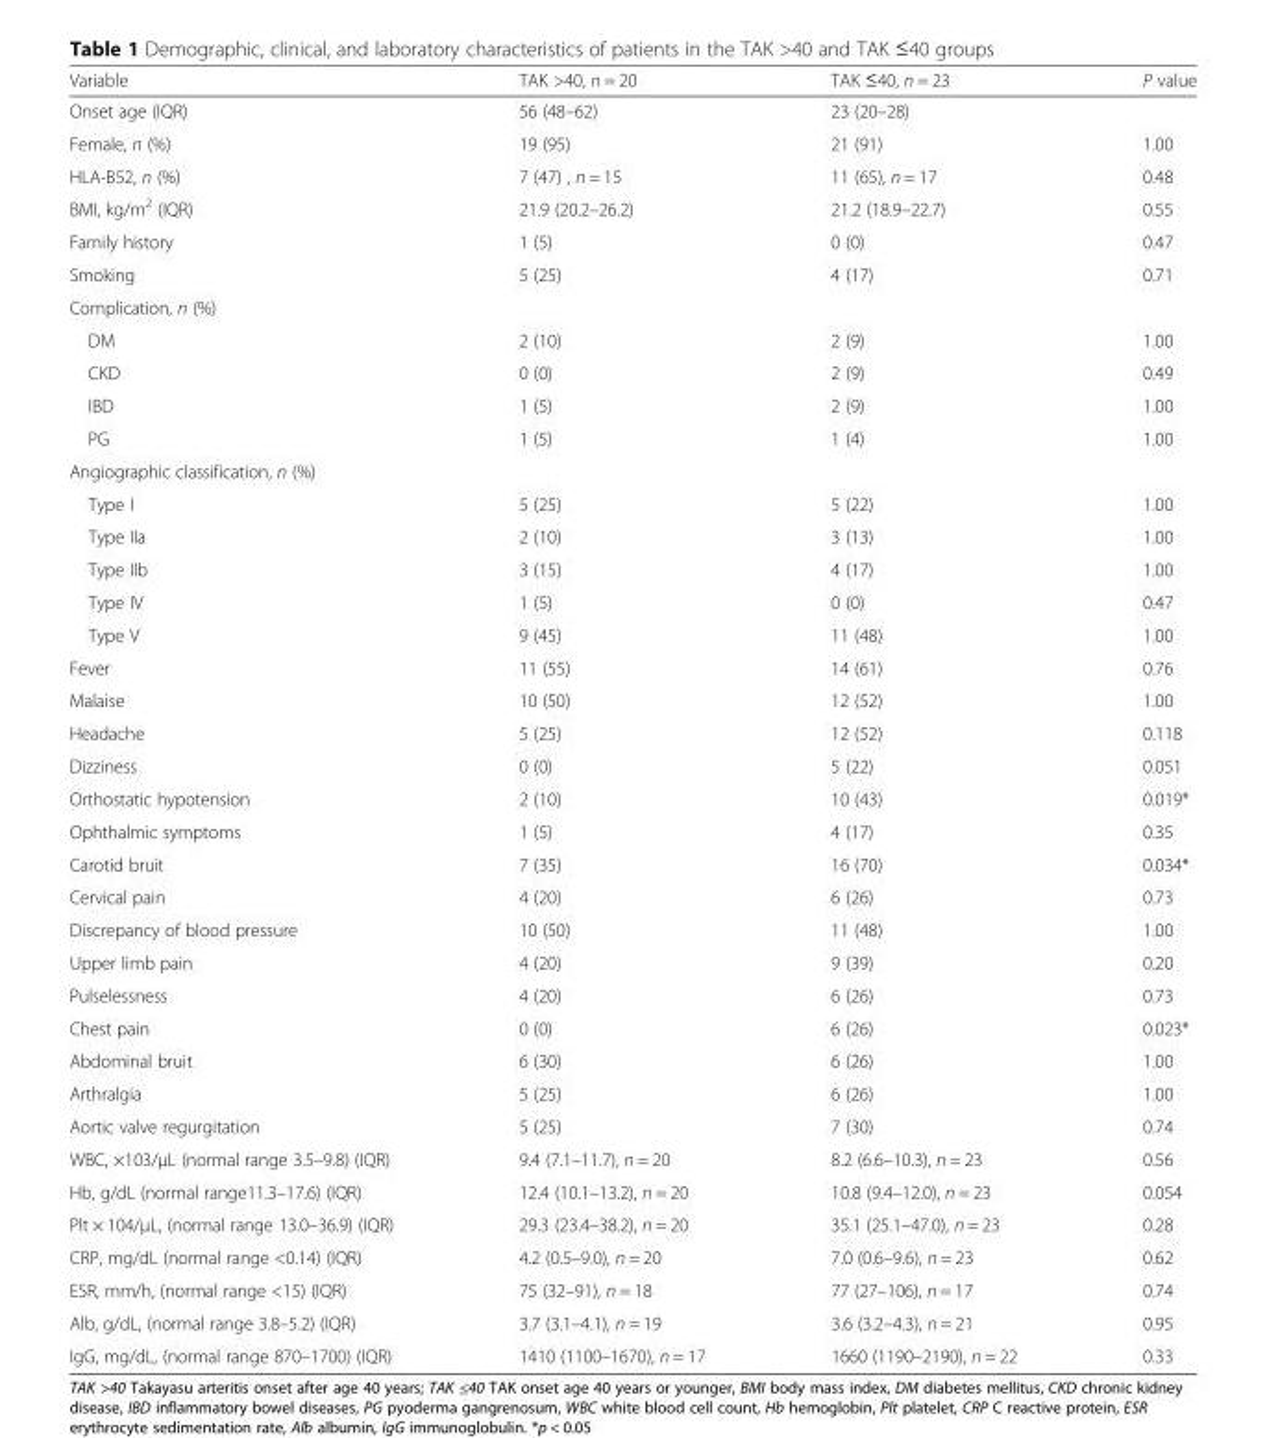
<table><thead><tr><td>Variable</td><td>TAK &gt;40, n = 20</td><td>TAK ≤40, n = 23</td><td>P value</td></tr></thead><tbody><tr><td>Onset age (IQR)</td><td>56 (48–62)</td><td>23 (20–28)</td><td></td></tr><tr><td>Female, n (%)</td><td>19 (95)</td><td>21 (91)</td><td>1.00</td></tr><tr><td>HLA-B52, n (%)</td><td>7 (47) , n = 15</td><td>11 (65), n = 17</td><td>0.48</td></tr><tr><td>BMI, kg/m<sup>2</sup> (IQR)</td><td>21.9 (20.2–26.2)</td><td>21.2 (18.9–22.7)</td><td>0.55</td></tr><tr><td>Family history</td><td>1 (5)</td><td>0 (0)</td><td>0.47</td></tr><tr><td>Smoking</td><td>5 (25)</td><td>4 (17)</td><td>0.71</td></tr><tr><td colspan="4">Complication, n (%)</td></tr><tr><td>DM</td><td>2 (10)</td><td>2 (9)</td><td>1.00</td></tr><tr><td>CKD</td><td>0 (0)</td><td>2 (9)</td><td>0.49</td></tr><tr><td>IBD</td><td>1 (5)</td><td>2 (9)</td><td>1.00</td></tr><tr><td>PG</td><td>1 (5)</td><td>1 (4)</td><td>1.00</td></tr><tr><td colspan="4">Angiographic classification, n (%)</td></tr><tr><td>Type I</td><td>5 (25)</td><td>5 (22)</td><td>1.00</td></tr><tr><td>Type IIa</td><td>2 (10)</td><td>3 (13)</td><td>1.00</td></tr><tr><td>Type IIb</td><td>3 (15)</td><td>4 (17)</td><td>1.00</td></tr><tr><td>Type IV</td><td>1 (5)</td><td>0 (0)</td><td>0.47</td></tr><tr><td>Type V</td><td>9 (45)</td><td>11 (48)</td><td>1.00</td></tr><tr><td>Fever</td><td>11 (55)</td><td>14 (61)</td><td>0.76</td></tr><tr><td>Malaise</td><td>10 (50)</td><td>12 (52)</td><td>1.00</td></tr><tr><td>Headache</td><td>5 (25)</td><td>12 (52)</td><td>0.118</td></tr><tr><td>Dizziness</td><td>0 (0)</td><td>5 (22)</td><td>0.051</td></tr><tr><td>Orthostatic hypotension</td><td>2 (10)</td><td>10 (43)</td><td>0.019*</td></tr><tr><td>Ophthalmic symptoms</td><td>1 (5)</td><td>4 (17)</td><td>0.35</td></tr><tr><td>Carotid bruit</td><td>7 (35)</td><td>16 (70)</td><td>0.034*</td></tr><tr><td>Cervical pain</td><td>4 (20)</td><td>6 (26)</td><td>0.73</td></tr><tr><td>Discrepancy of blood pressure</td><td>10 (50)</td><td>11 (48)</td><td>1.00</td></tr><tr><td>Upper limb pain</td><td>4 (20)</td><td>9 (39)</td><td>0.20</td></tr><tr><td>Pulselessness</td><td>4 (20)</td><td>6 (26)</td><td>0.73</td></tr><tr><td>Chest pain</td><td>0 (0)</td><td>6 (26)</td><td>0.023*</td></tr><tr><td>Abdominal bruit</td><td>6 (30)</td><td>6 (26)</td><td>1.00</td></tr><tr><td>Arthralgia</td><td>5 (25)</td><td>6 (26)</td><td>1.00</td></tr><tr><td>Aortic valve regurgitation</td><td>5 (25)</td><td>7 (30)</td><td>0.74</td></tr><tr><td>WBC, ×103/μL (normal range 3.5–9.8) (IQR)</td><td>9.4 (7.1–11.7), n = 20</td><td>8.2 (6.6–10.3), n = 23</td><td>0.56</td></tr><tr><td>Hb, g/dL (normal range11.3–17.6) (IQR)</td><td>12.4 (10.1–13.2), n = 20</td><td>10.8 (9.4–12.0), n = 23</td><td>0.054</td></tr><tr><td>Plt × 104/μL, (normal range 13.0–36.9) (IQR)</td><td>29.3 (23.4–38.2), n = 20</td><td>35.1 (25.1–47.0), n = 23</td><td>0.28</td></tr><tr><td>CRP, mg/dL (normal range &lt;0.14) (IQR)</td><td>4.2 (0.5–9.0), n = 20</td><td>7.0 (0.6–9.6), n = 23</td><td>0.62</td></tr><tr><td>ESR, mm/h, (normal range &lt;15) (IQR)</td><td>75 (32–91), n = 18</td><td>77 (27–106), n = 17</td><td>0.74</td></tr><tr><td>Alb, g/dL, (normal range 3.8–5.2) (IQR)</td><td>3.7 (3.1–4.1), n = 19</td><td>3.6 (3.2–4.3), n = 21</td><td>0.95</td></tr><tr><td>IgG, mg/dL, (normal range 870–1700) (IQR)</td><td>1410 (1100–1670), n = 17</td><td>1660 (1190–2190), n = 22</td><td>0.33</td></tr></tbody></table>